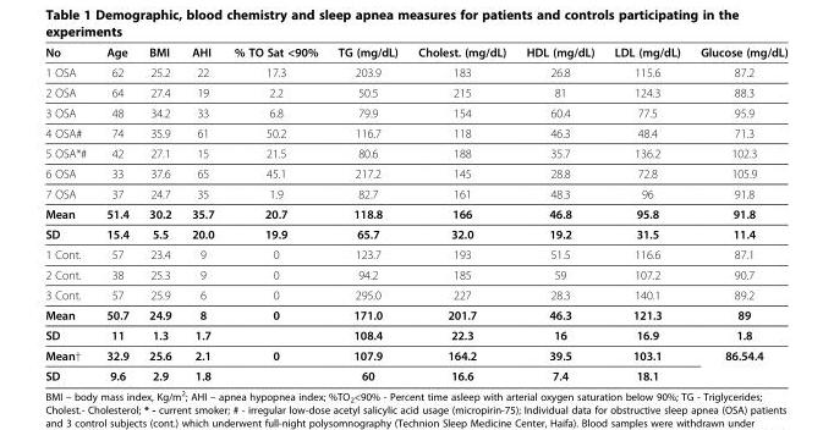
<table><thead><tr><td>No</td><td>Age</td><td>BMI</td><td>AHI</td><td>% TO Sat &lt;90%</td><td>TG (mg/dL)</td><td>Cholest. (mg/dL)</td><td>HDL (mg/dL)</td><td>LDL (mg/dL)</td><td>Glucose (mg/dL)</td></tr></thead><tbody><tr><td>1 OSA</td><td>62</td><td>25.2</td><td>22</td><td>17.3</td><td>203.9</td><td>183</td><td>26.8</td><td>115.6</td><td>87.2</td></tr><tr><td>2 OSA</td><td>64</td><td>27.4</td><td>19</td><td>2.2</td><td>50.5</td><td>215</td><td>81</td><td>124.3</td><td>88.3</td></tr><tr><td>3 OSA</td><td>48</td><td>34.2</td><td>33</td><td>6.8</td><td>79.9</td><td>154</td><td>60.4</td><td>77.5</td><td>95.9</td></tr><tr><td>4 OSA#</td><td>74</td><td>35.9</td><td>61</td><td>50.2</td><td>116.7</td><td>118</td><td>46.3</td><td>48.4</td><td>71.3</td></tr><tr><td>5 OSA*#</td><td>42</td><td>27.1</td><td>15</td><td>21.5</td><td>80.6</td><td>188</td><td>35.7</td><td>136.2</td><td>102.3</td></tr><tr><td>6 OSA</td><td>33</td><td>37.6</td><td>65</td><td>45.1</td><td>217.2</td><td>145</td><td>28.8</td><td>72.8</td><td>105.9</td></tr><tr><td>7 OSA</td><td>37</td><td>24.7</td><td>35</td><td>1.9</td><td>82.7</td><td>161</td><td>48.3</td><td>96</td><td>91.8</td></tr><tr><td>Mean</td><td>51.4</td><td>30.2</td><td>35.7</td><td>20.7</td><td>118.8</td><td>166</td><td>46.8</td><td>95.8</td><td>91.8</td></tr><tr><td>SD</td><td>15.4</td><td>5.5</td><td>20.0</td><td>19.9</td><td>65.7</td><td>32.0</td><td>19.2</td><td>31.5</td><td>11.4</td></tr><tr><td>1 Cont.</td><td>57</td><td>23.4</td><td>9</td><td>0</td><td>123.7</td><td>193</td><td>51.5</td><td>116.6</td><td>87.1</td></tr><tr><td>2 Cont.</td><td>38</td><td>25.3</td><td>9</td><td>0</td><td>94.2</td><td>185</td><td>59</td><td>107.2</td><td>90.7</td></tr><tr><td>3 Cont.</td><td>57</td><td>25.9</td><td>6</td><td>0</td><td>295.0</td><td>227</td><td>28.3</td><td>140.1</td><td>89.2</td></tr><tr><td>Mean</td><td>50.7</td><td>24.9</td><td>8</td><td>0</td><td>171.0</td><td>201.7</td><td>46.3</td><td>121.3</td><td>89</td></tr><tr><td>SD</td><td>11</td><td>1.3</td><td>1.7</td><td></td><td>108.4</td><td>22.3</td><td>16</td><td>16.9</td><td>1.8</td></tr><tr><td>Mean†</td><td>32.9</td><td>25.6</td><td>2.1</td><td>0</td><td>107.9</td><td>164.2</td><td>39.5</td><td>103.1</td><td rowspan="2">86.54.4</td></tr><tr><td>SD</td><td>9.6</td><td>2.9</td><td>1.8</td><td></td><td>60</td><td>16.6</td><td>7.4</td><td>18.1</td></tr></tbody></table>